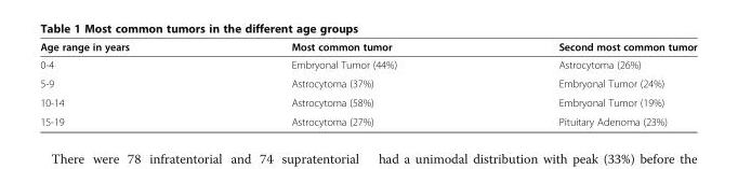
<table><thead><tr><td>Age range in years</td><td>Most common tumor</td><td>Second most common tumor</td></tr></thead><tbody><tr><td>0-4</td><td>Embryonal Tumor (44%)</td><td>Astrocytoma (26%)</td></tr><tr><td>5-9</td><td>Astrocytoma (37%)</td><td>Embryonal Tumor (24%)</td></tr><tr><td>10-14</td><td>Astrocytoma (58%)</td><td>Embryonal Tumor (19%)</td></tr><tr><td>15-19</td><td>Astrocytoma (27%)</td><td>Pituitary Adenoma (23%)</td></tr></tbody></table>